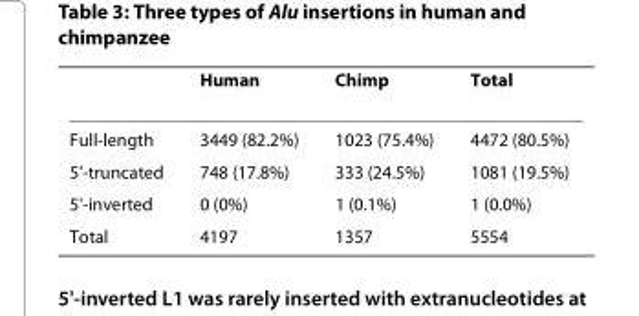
<table><thead><tr><td></td><td>Human</td><td>Chimp</td><td>Total</td></tr></thead><tbody><tr><td>Full-length</td><td>3449 (82.2%)</td><td>1023 (75.4%)</td><td>4472 (80.5%)</td></tr><tr><td>5&#x27;-truncated</td><td>748 (17.8%)</td><td>333 (24.5%)</td><td>1081 (19.5%)</td></tr><tr><td>5&#x27;-inverted</td><td>0 (0%)</td><td>1 (0.1%)</td><td>1 (0.0%)</td></tr><tr><td>Total</td><td>4197</td><td>1357</td><td>5554</td></tr></tbody></table>